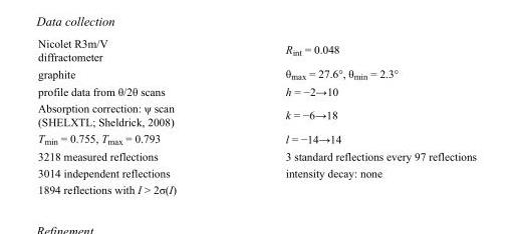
<table><tbody><tr><td>Nicolet R3m/V diffractometer</td><td>R<sub>int</sub> = 0.048</td></tr><tr><td>graphite</td><td>θ<sub>max</sub> = 27.6°, θ<sub>min</sub> = 2.3°</td></tr><tr><td>profile data from θ/2θ scans</td><td>h = −2→10</td></tr><tr><td>Absorption correction: ψ scan (SHELXTL; Sheldrick, 2008)</td><td>k = −6→18</td></tr><tr><td>T<sub>min</sub> = 0.755, T<sub>max</sub> = 0.793</td><td>l = −14→14</td></tr><tr><td>3218 measured reflections</td><td>3 standard reflections every 97 reflections</td></tr><tr><td>3014 independent reflections</td><td>intensity decay: none</td></tr><tr><td>1894 reflections with I &gt; 2σ(I)</td><td></td></tr></tbody></table>